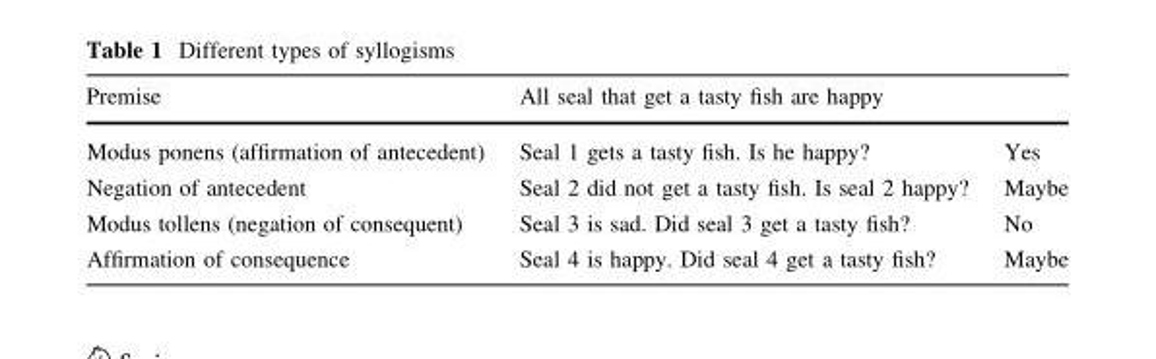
<table><thead><tr><td>Premise</td><td>All seal that get a tasty fish are happy</td><td></td></tr></thead><tbody><tr><td>Modus ponens (affirmation of antecedent)</td><td>Seal 1 gets a tasty fish. Is he happy?</td><td>Yes</td></tr><tr><td>Negation of antecedent</td><td>Seal 2 did not get a tasty fish. Is seal 2 happy?</td><td>Maybe</td></tr><tr><td>Modus tollens (negation of consequent)</td><td>Seal 3 is sad. Did seal 3 get a tasty fish?</td><td>No</td></tr><tr><td>Affirmation of consequence</td><td>Seal 4 is happy. Did seal 4 get a tasty fish?</td><td>Maybe</td></tr></tbody></table>